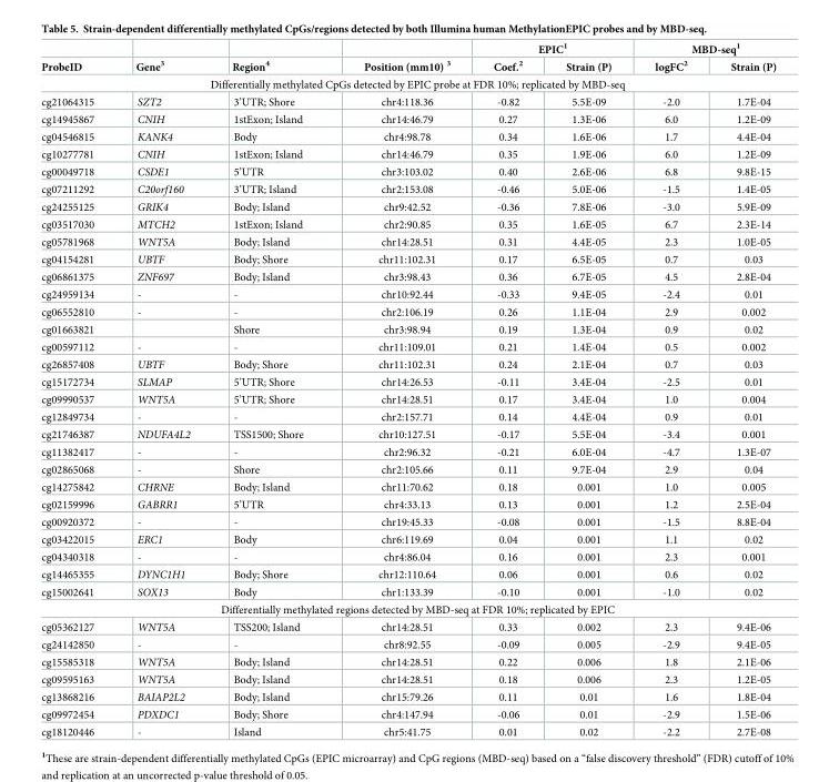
<table><thead><tr><td rowspan="2">ProbeID</td><td rowspan="2">Gene<sup>3</sup></td><td rowspan="2">Region<sup>4</sup></td><td rowspan="2">Position (mm10) <sup>3</sup></td><td colspan="2">EPIC<sup>1</sup></td><td colspan="2">MBD-seq<sup>1</sup></td></tr><tr><td>Coef.<sup>2</sup></td><td>Strain (P)</td><td>logFC<sup>2</sup></td><td>Strain (P)</td></tr></thead><tbody><tr><td colspan="8">Differentially methylated CpGs detected by EPIC probe at FDR 10%; replicated by MBD-seq</td></tr><tr><td>cg21064315</td><td>SZT2</td><td>3’UTR; Shore</td><td>chr4:118.36</td><td>-0.82</td><td>5.5E-09</td><td>-2.0</td><td>1.7E-04</td></tr><tr><td>cg14945867</td><td>CNIH</td><td>1stExon; Island</td><td>chr14:46.79</td><td>0.27</td><td>1.3E-06</td><td>6.0</td><td>1.2E-09</td></tr><tr><td>cg04546815</td><td>KANK4</td><td>Body</td><td>chr4:98.78</td><td>0.34</td><td>1.6E-06</td><td>1.7</td><td>4.4E-04</td></tr><tr><td>cg10277781</td><td>CNIH</td><td>1stExon; Island</td><td>chr14:46.79</td><td>0.35</td><td>1.9E-06</td><td>6.0</td><td>1.2E-09</td></tr><tr><td>cg00049718</td><td>CSDE1</td><td>5’UTR</td><td>chr3:103.02</td><td>0.40</td><td>2.6E-06</td><td>6.8</td><td>9.8E-15</td></tr><tr><td>cg07211292</td><td>C20orf160</td><td>3’UTR; Island</td><td>chr2:153.08</td><td>-0.46</td><td>5.0E-06</td><td>-1.5</td><td>1.4E-05</td></tr><tr><td>cg24255125</td><td>GRIK4</td><td>Body; Island</td><td>chr9:42.52</td><td>-0.36</td><td>7.8E-06</td><td>-3.0</td><td>5.9E-09</td></tr><tr><td>cg03517030</td><td>MTCH2</td><td>1stExon; Island</td><td>chr2:90.85</td><td>0.35</td><td>1.6E-05</td><td>6.7</td><td>2.3E-14</td></tr><tr><td>cg05781968</td><td>WNT5A</td><td>Body; Island</td><td>chr14:28.51</td><td>0.31</td><td>4.4E-05</td><td>2.3</td><td>1.0E-05</td></tr><tr><td>cg04154281</td><td>UBTF</td><td>Body; Shore</td><td>chr11:102.31</td><td>0.17</td><td>6.5E-05</td><td>0.7</td><td>0.03</td></tr><tr><td>cg06861375</td><td>ZNF697</td><td>Body; Island</td><td>chr3:98.43</td><td>0.36</td><td>6.7E-05</td><td>4.5</td><td>2.8E-04</td></tr><tr><td>cg24959134</td><td>-</td><td>-</td><td>chr10:92.44</td><td>-0.33</td><td>9.4E-05</td><td>-2.4</td><td>0.01</td></tr><tr><td>cg06552810</td><td>-</td><td>-</td><td>chr2:106.19</td><td>0.26</td><td>1.1E-04</td><td>2.9</td><td>0.002</td></tr><tr><td>cg01663821</td><td></td><td>Shore</td><td>chr3:98.94</td><td>0.19</td><td>1.3E-04</td><td>0.9</td><td>0.02</td></tr><tr><td>cg00597112</td><td>-</td><td>-</td><td>chr11:109.01</td><td>0.21</td><td>1.4E-04</td><td>0.5</td><td>0.002</td></tr><tr><td>cg26857408</td><td>UBTF</td><td>Body; Shore</td><td>chr11:102.31</td><td>0.24</td><td>2.1E-04</td><td>0.7</td><td>0.03</td></tr><tr><td>cg15172734</td><td>SLMAP</td><td>5’UTR; Shore</td><td>chr14:26.53</td><td>-0.11</td><td>3.4E-04</td><td>-2.5</td><td>0.01</td></tr><tr><td>cg09990537</td><td>WNT5A</td><td>5’UTR; Shore</td><td>chr14:28.51</td><td>0.17</td><td>3.4E-04</td><td>1.0</td><td>0.004</td></tr><tr><td>cg12849734</td><td>-</td><td>-</td><td>chr2:157.71</td><td>0.14</td><td>4.4E-04</td><td>0.9</td><td>0.01</td></tr><tr><td>cg21746387</td><td>NDUFA4L2</td><td>TSS1500; Shore</td><td>chr10:127.51</td><td>-0.17</td><td>5.5E-04</td><td>-3.4</td><td>0.001</td></tr><tr><td>cg11382417</td><td>-</td><td>-</td><td>chr2:96.32</td><td>-0.21</td><td>6.0E-04</td><td>-4.7</td><td>1.3E-07</td></tr><tr><td>cg02865068</td><td>-</td><td>Shore</td><td>chr2:105.66</td><td>0.11</td><td>9.7E-04</td><td>2.9</td><td>0.04</td></tr><tr><td>cg14275842</td><td>CHRNE</td><td>Body; Island</td><td>chr11:70.62</td><td>0.18</td><td>0.001</td><td>1.0</td><td>0.005</td></tr><tr><td>cg02159996</td><td>GABRR1</td><td>5’UTR</td><td>chr4:33.13</td><td>0.13</td><td>0.001</td><td>1.2</td><td>2.5E-04</td></tr><tr><td>cg00920372</td><td>-</td><td>-</td><td>chr19:45.33</td><td>-0.08</td><td>0.001</td><td>-1.5</td><td>8.8E-04</td></tr><tr><td>cg03422015</td><td>ERC1</td><td>Body</td><td>chr6:119.69</td><td>0.04</td><td>0.001</td><td>1.1</td><td>0.02</td></tr><tr><td>cg04340318</td><td>-</td><td>-</td><td>chr4:86.04</td><td>0.16</td><td>0.001</td><td>2.3</td><td>0.001</td></tr><tr><td>cg14465355</td><td>DYNC1H1</td><td>Body; Shore</td><td>chr12:110.64</td><td>0.06</td><td>0.001</td><td>0.6</td><td>0.02</td></tr><tr><td>cg15002641</td><td>SOX13</td><td>Body</td><td>chr1:133.39</td><td>-0.10</td><td>0.001</td><td>-1.0</td><td>0.02</td></tr><tr><td colspan="8">Differentially methylated regions detected by MBD-seq at FDR 10%; replicated by EPIC</td></tr><tr><td>cg05362127</td><td>WNT5A</td><td>TSS200; Island</td><td>chr14:28.51</td><td>0.33</td><td>0.002</td><td>2.3</td><td>9.4E-06</td></tr><tr><td>cg24142850</td><td>-</td><td>-</td><td>chr8:92.55</td><td>-0.09</td><td>0.005</td><td>-2.9</td><td>9.4E-05</td></tr><tr><td>cg15585318</td><td>WNT5A</td><td>Body; Island</td><td>chr14:28.51</td><td>0.22</td><td>0.006</td><td>1.8</td><td>2.1E-06</td></tr><tr><td>cg09595163</td><td>WNT5A</td><td>Body; Island</td><td>chr14:28.51</td><td>0.18</td><td>0.006</td><td>2.3</td><td>1.2E-05</td></tr><tr><td>cg13868216</td><td>BAIAP2L2</td><td>Body; Island</td><td>chr15:79.26</td><td>0.11</td><td>0.01</td><td>1.6</td><td>1.8E-04</td></tr><tr><td>cg09972454</td><td>PDXDC1</td><td>Body; Shore</td><td>chr4:147.94</td><td>-0.06</td><td>0.01</td><td>-2.9</td><td>1.5E-06</td></tr><tr><td>cg18120446</td><td>-</td><td>Island</td><td>chr5:41.75</td><td>0.01</td><td>0.02</td><td>-2.2</td><td>2.7E-08</td></tr></tbody></table>